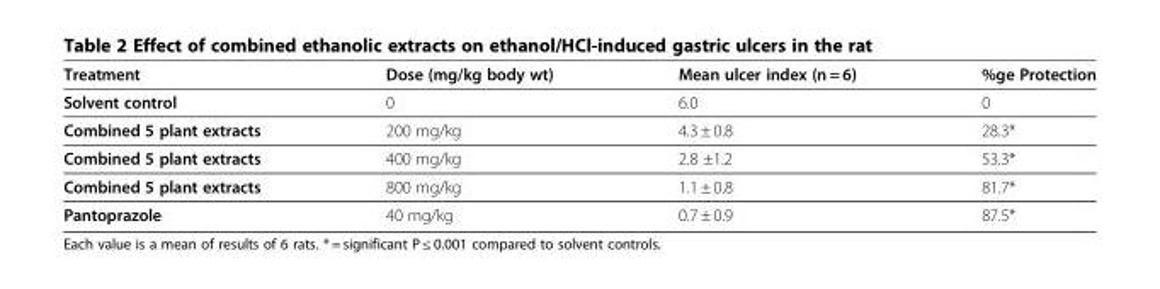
<table><thead><tr><td>Treatment</td><td>Dose (mg/kg body wt)</td><td>Mean ulcer index (n = 6)</td><td>%ge Protection</td></tr></thead><tbody><tr><td>Solvent control</td><td>0</td><td>6.0</td><td>0</td></tr><tr><td>Combined 5 plant extracts</td><td>200 mg/kg</td><td>4.3 ± 0.8</td><td>28.3*</td></tr><tr><td>Combined 5 plant extracts</td><td>400 mg/kg</td><td>2.8 ±1.2</td><td>53.3*</td></tr><tr><td>Combined 5 plant extracts</td><td>800 mg/kg</td><td>1.1 ± 0.8</td><td>81.7*</td></tr><tr><td>Pantoprazole</td><td>40 mg/kg</td><td>0.7 ± 0.9</td><td>87.5*</td></tr></tbody></table>